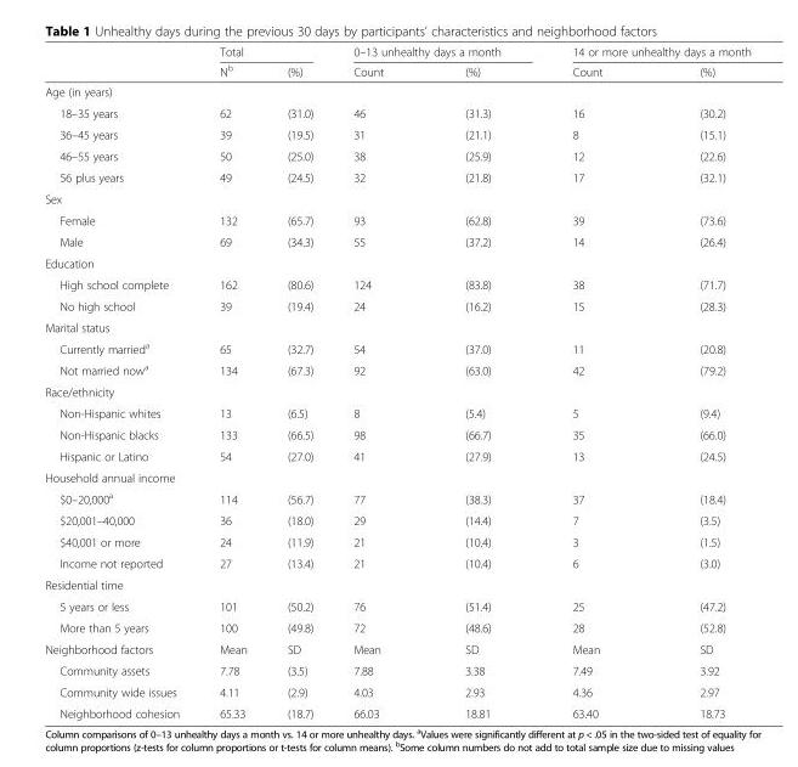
<table><thead><tr><td rowspan="2"></td><td colspan="2">Total</td><td colspan="2">0–13 unhealthy days a month</td><td colspan="2">14 or more unhealthy days a month</td></tr><tr><td>N<sup>b</sup></td><td>(%)</td><td>Count</td><td>(%)</td><td>Count</td><td>(%)</td></tr></thead><tbody><tr><td colspan="7">Age (in years)</td></tr><tr><td>18–35 years</td><td>62</td><td>(31.0)</td><td>46</td><td>(31.3)</td><td>16</td><td>(30.2)</td></tr><tr><td>36–45 years</td><td>39</td><td>(19.5)</td><td>31</td><td>(21.1)</td><td>8</td><td>(15.1)</td></tr><tr><td>46–55 years</td><td>50</td><td>(25.0)</td><td>38</td><td>(25.9)</td><td>12</td><td>(22.6)</td></tr><tr><td>56 plus years</td><td>49</td><td>(24.5)</td><td>32</td><td>(21.8)</td><td>17</td><td>(32.1)</td></tr><tr><td colspan="7">Sex</td></tr><tr><td>Female</td><td>132</td><td>(65.7)</td><td>93</td><td>(62.8)</td><td>39</td><td>(73.6)</td></tr><tr><td>Male</td><td>69</td><td>(34.3)</td><td>55</td><td>(37.2)</td><td>14</td><td>(26.4)</td></tr><tr><td colspan="7">Education</td></tr><tr><td>High school complete</td><td>162</td><td>(80.6)</td><td>124</td><td>(83.8)</td><td>38</td><td>(71.7)</td></tr><tr><td>No high school</td><td>39</td><td>(19.4)</td><td>24</td><td>(16.2)</td><td>15</td><td>(28.3)</td></tr><tr><td colspan="7">Marital status</td></tr><tr><td>Currently married<sup>a</sup></td><td>65</td><td>(32.7)</td><td>54</td><td>(37.0)</td><td>11</td><td>(20.8)</td></tr><tr><td>Not married now<sup>a</sup></td><td>134</td><td>(67.3)</td><td>92</td><td>(63.0)</td><td>42</td><td>(79.2)</td></tr><tr><td colspan="7">Race/ethnicity</td></tr><tr><td>Non-Hispanic whites</td><td>13</td><td>(6.5)</td><td>8</td><td>(5.4)</td><td>5</td><td>(9.4)</td></tr><tr><td>Non-Hispanic blacks</td><td>133</td><td>(66.5)</td><td>98</td><td>(66.7)</td><td>35</td><td>(66.0)</td></tr><tr><td>Hispanic or Latino</td><td>54</td><td>(27.0)</td><td>41</td><td>(27.9)</td><td>13</td><td>(24.5)</td></tr><tr><td colspan="7">Household annual income</td></tr><tr><td>$0–20,000<sup>a</sup></td><td>114</td><td>(56.7)</td><td>77</td><td>(38.3)</td><td>37</td><td>(18.4)</td></tr><tr><td>$20,001–40,000</td><td>36</td><td>(18.0)</td><td>29</td><td>(14.4)</td><td>7</td><td>(3.5)</td></tr><tr><td>$40,001 or more</td><td>24</td><td>(11.9)</td><td>21</td><td>(10.4)</td><td>3</td><td>(1.5)</td></tr><tr><td>Income not reported</td><td>27</td><td>(13.4)</td><td>21</td><td>(10.4)</td><td>6</td><td>(3.0)</td></tr><tr><td colspan="7">Residential time</td></tr><tr><td>5 years or less</td><td>101</td><td>(50.2)</td><td>76</td><td>(51.4)</td><td>25</td><td>(47.2)</td></tr><tr><td>More than 5 years</td><td>100</td><td>(49.8)</td><td>72</td><td>(48.6)</td><td>28</td><td>(52.8)</td></tr><tr><td>Neighborhood factors</td><td>Mean</td><td>SD</td><td>Mean</td><td>SD</td><td>Mean</td><td>SD</td></tr><tr><td>Community assets</td><td>7.78</td><td>(3.5)</td><td>7.88</td><td>3.38</td><td>7.49</td><td>3.92</td></tr><tr><td>Community wide issues</td><td>4.11</td><td>(2.9)</td><td>4.03</td><td>2.93</td><td>4.36</td><td>2.97</td></tr><tr><td>Neighborhood cohesion</td><td>65.33</td><td>(18.7)</td><td>66.03</td><td>18.81</td><td>63.40</td><td>18.73</td></tr></tbody></table>